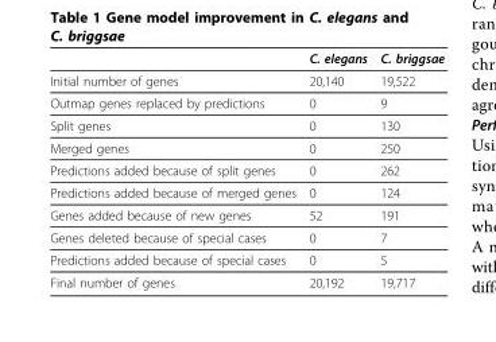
<table><thead><tr><td></td><td>C. elegans</td><td>C. briggsae</td></tr></thead><tbody><tr><td>Initial number of genes</td><td>20,140</td><td>19,522</td></tr><tr><td>Outmap genes replaced by predictions</td><td>0</td><td>9</td></tr><tr><td>Split genes</td><td>0</td><td>130</td></tr><tr><td>Merged genes</td><td>0</td><td>250</td></tr><tr><td>Predictions added because of split genes</td><td>0</td><td>262</td></tr><tr><td>Predictions added because of merged genes</td><td>0</td><td>124</td></tr><tr><td>Genes added because of new genes</td><td>52</td><td>191</td></tr><tr><td>Genes deleted because of special cases</td><td>0</td><td>7</td></tr><tr><td>Predictions added because of special cases</td><td>0</td><td>5</td></tr><tr><td>Final number of genes</td><td>20,192</td><td>19,717</td></tr></tbody></table>